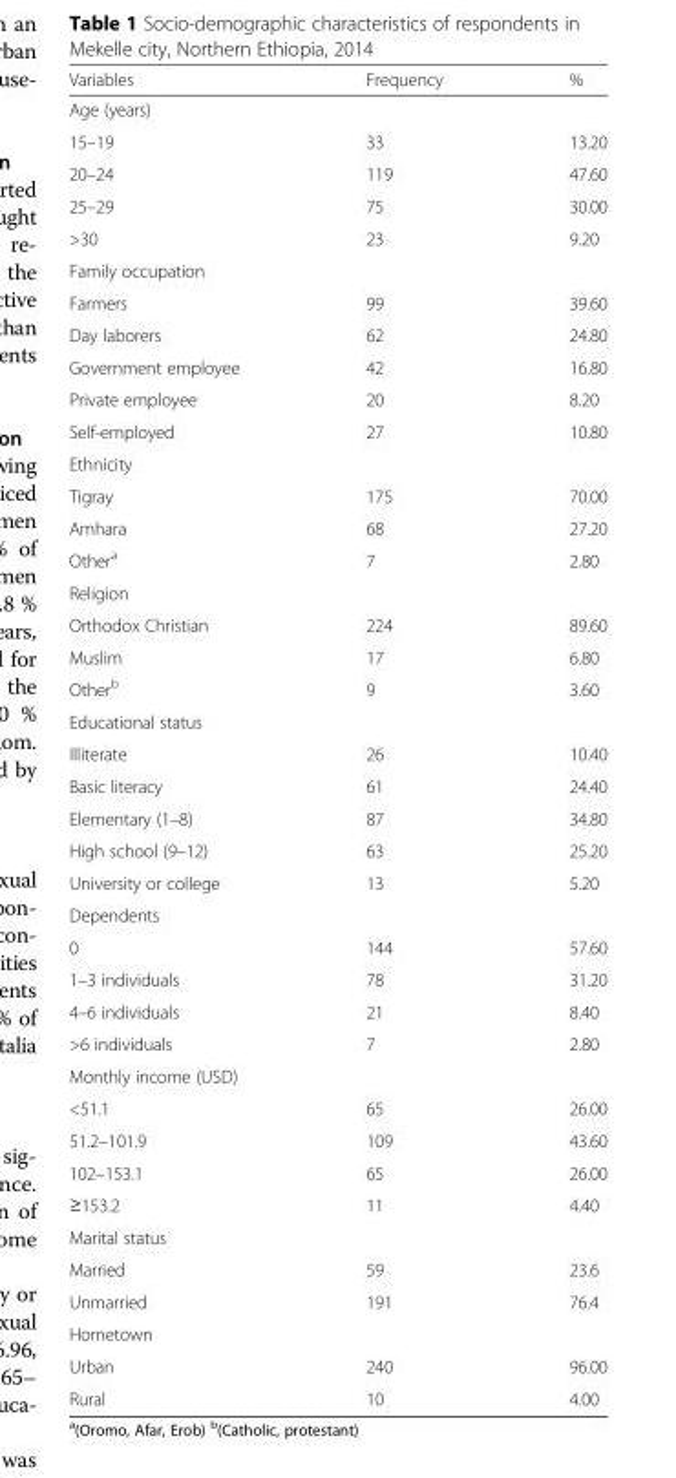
<table><thead><tr><td>Variables</td><td>Frequency</td><td>%</td></tr></thead><tbody><tr><td colspan="3">Age (years)</td></tr><tr><td>15–19</td><td>33</td><td>13.20</td></tr><tr><td>20–24</td><td>119</td><td>47.60</td></tr><tr><td>25–29</td><td>75</td><td>30.00</td></tr><tr><td>&gt;30</td><td>23</td><td>9.20</td></tr><tr><td colspan="3">Family occupation</td></tr><tr><td>Farmers</td><td>99</td><td>39.60</td></tr><tr><td>Day laborers</td><td>62</td><td>24.80</td></tr><tr><td>Government employee</td><td>42</td><td>16.80</td></tr><tr><td>Private employee</td><td>20</td><td>8.20</td></tr><tr><td>Self-employed</td><td>27</td><td>10.80</td></tr><tr><td colspan="3">Ethnicity</td></tr><tr><td>Tigray</td><td>175</td><td>70.00</td></tr><tr><td>Amhara</td><td>68</td><td>27.20</td></tr><tr><td>Other<sup>a</sup></td><td>7</td><td>2.80</td></tr><tr><td colspan="3">Religion</td></tr><tr><td>Orthodox Christian</td><td>224</td><td>89.60</td></tr><tr><td>Muslim</td><td>17</td><td>6.80</td></tr><tr><td>Other<sup>b</sup></td><td>9</td><td>3.60</td></tr><tr><td colspan="3">Educational status</td></tr><tr><td>Illiterate</td><td>26</td><td>10.40</td></tr><tr><td>Basic literacy</td><td>61</td><td>24.40</td></tr><tr><td>Elementary (1–8)</td><td>87</td><td>34.80</td></tr><tr><td>High school (9–12)</td><td>63</td><td>25.20</td></tr><tr><td>University or college</td><td>13</td><td>5.20</td></tr><tr><td colspan="3">Dependents</td></tr><tr><td>0</td><td>144</td><td>57.60</td></tr><tr><td>1–3 individuals</td><td>78</td><td>31.20</td></tr><tr><td>4–6 individuals</td><td>21</td><td>8.40</td></tr><tr><td>&gt;6 individuals</td><td>7</td><td>2.80</td></tr><tr><td colspan="3">Monthly income (USD)</td></tr><tr><td>&lt;51.1</td><td>65</td><td>26.00</td></tr><tr><td>51.2–101.9</td><td>109</td><td>43.60</td></tr><tr><td>102–153.1</td><td>65</td><td>26.00</td></tr><tr><td>≥153.2</td><td>11</td><td>4.40</td></tr><tr><td colspan="3">Marital status</td></tr><tr><td>Married</td><td>59</td><td>23.6</td></tr><tr><td>Unmarried</td><td>191</td><td>76.4</td></tr><tr><td colspan="3">Hometown</td></tr><tr><td>Urban</td><td>240</td><td>96.00</td></tr><tr><td>Rural</td><td>10</td><td>4.00</td></tr></tbody></table>